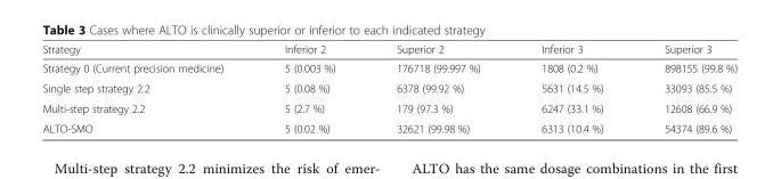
<table><thead><tr><td>Strategy</td><td>Inferior 2</td><td>Superior 2</td><td>Inferior 3</td><td>Superior 3</td></tr></thead><tbody><tr><td>Strategy 0 (Current precision medicine)</td><td>5 (0.003 %)</td><td>176718 (99.997 %)</td><td>1808 (0.2 %)</td><td>898155 (99.8 %)</td></tr><tr><td>Single step strategy 2.2</td><td>5 (0.08 %)</td><td>6378 (99.92 %)</td><td>5631 (14.5 %)</td><td>33093 (85.5 %)</td></tr><tr><td>Multi-step strategy 2.2</td><td>5 (2.7 %)</td><td>179 (97.3 %)</td><td>6247 (33.1 %)</td><td>12608 (66.9 %)</td></tr><tr><td>ALTO-SMO</td><td>5 (0.02 %)</td><td>32621 (99.98 %)</td><td>6313 (10.4 %)</td><td>54374 (89.6 %)</td></tr></tbody></table>